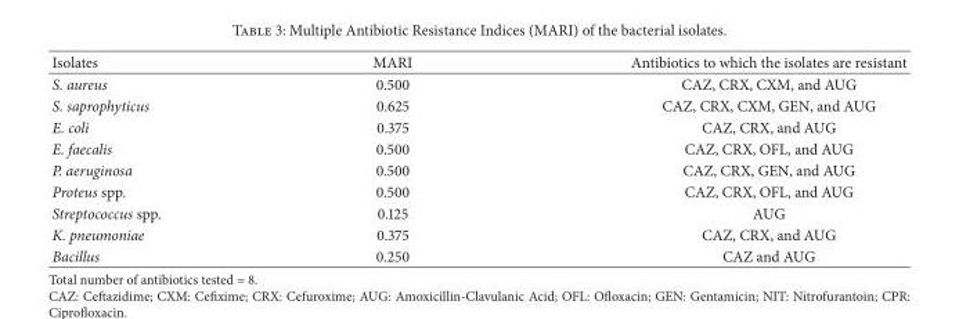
<table><thead><tr><td>Isolates</td><td>MARI</td><td>Antibiotics to which the isolates are resistant</td></tr></thead><tbody><tr><td>S. aureus</td><td>0.500</td><td>CAZ, CRX, CXM, and AUG</td></tr><tr><td>S. saprophyticus</td><td>0.625</td><td>CAZ, CRX, CXM, GEN, and AUG</td></tr><tr><td>E. coli</td><td>0.375</td><td>CAZ, CRX, and AUG</td></tr><tr><td>E. faecalis</td><td>0.500</td><td>CAZ, CRX, OFL, and AUG</td></tr><tr><td>P. aeruginosa</td><td>0.500</td><td>CAZ, CRX, GEN, and AUG</td></tr><tr><td>Proteus spp.</td><td>0.500</td><td>CAZ, CRX, OFL, and AUG</td></tr><tr><td>Streptococcus spp.</td><td>0.125</td><td>AUG</td></tr><tr><td>K. pneumoniae</td><td>0.375</td><td>CAZ, CRX, and AUG</td></tr><tr><td>Bacillus</td><td>0.250</td><td>CAZ and AUG</td></tr></tbody></table>